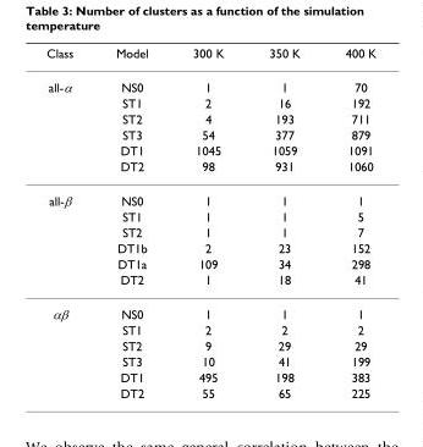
<table><thead><tr><td>Class</td><td>Model</td><td>300 K</td><td>350 K</td><td>400 K</td></tr></thead><tbody><tr><td rowspan="6">all-α</td><td>NS0</td><td>1</td><td>1</td><td>70</td></tr><tr><td>ST1</td><td>2</td><td>16</td><td>192</td></tr><tr><td>ST2</td><td>4</td><td>193</td><td>711</td></tr><tr><td>ST3</td><td>54</td><td>377</td><td>879</td></tr><tr><td>DT1</td><td>1045</td><td>1059</td><td>1091</td></tr><tr><td>DT2</td><td>98</td><td>931</td><td>1060</td></tr><tr><td rowspan="6">all-β</td><td>NS0</td><td>1</td><td>1</td><td>1</td></tr><tr><td>ST1</td><td>1</td><td>1</td><td>5</td></tr><tr><td>ST2</td><td>1</td><td>1</td><td>7</td></tr><tr><td>DT1b</td><td>2</td><td>23</td><td>152</td></tr><tr><td>DT1a</td><td>109</td><td>34</td><td>298</td></tr><tr><td>DT2</td><td>1</td><td>18</td><td>41</td></tr><tr><td rowspan="6">αβ</td><td>NS0</td><td>1</td><td>1</td><td>1</td></tr><tr><td>ST1</td><td>2</td><td>2</td><td>2</td></tr><tr><td>ST2</td><td>9</td><td>29</td><td>29</td></tr><tr><td>ST3</td><td>10</td><td>41</td><td>199</td></tr><tr><td>DT1</td><td>495</td><td>198</td><td>383</td></tr><tr><td>DT2</td><td>55</td><td>65</td><td>225</td></tr></tbody></table>